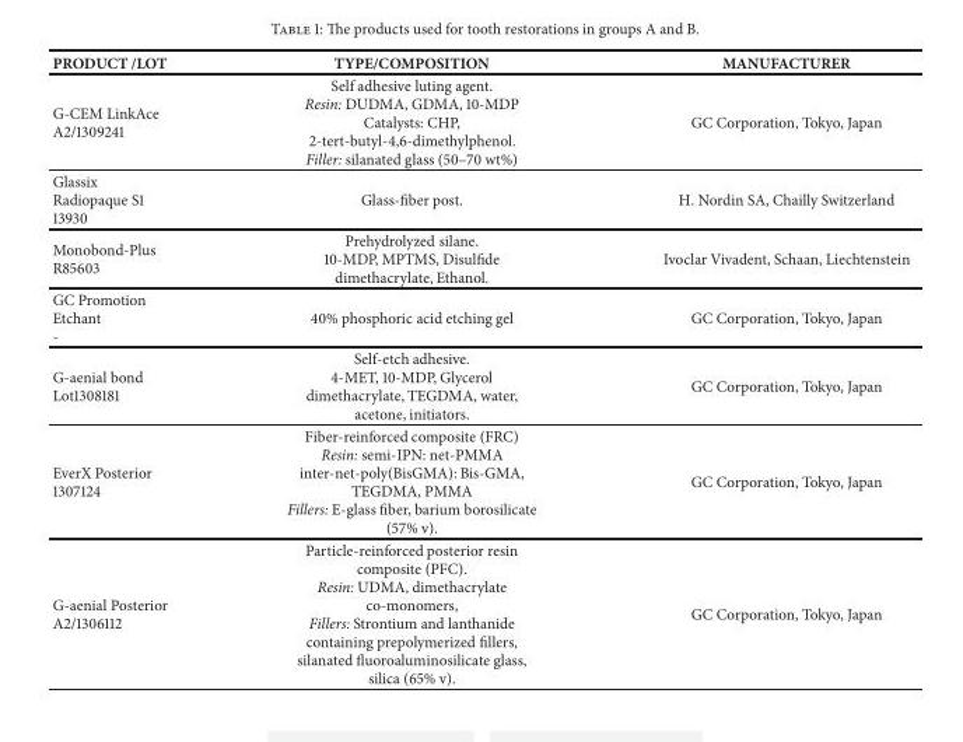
<table><thead><tr><td>PRODUCT /LOT</td><td>TYPE/COMPOSITION</td><td>MANUFACTURER</td></tr></thead><tbody><tr><td>G-CEM LinkAce A2/1309241</td><td>Self adhesive luting agent. Resin: DUDMA, GDMA, 10-MDP Catalysts: CHP, 2-tert-butyl-4,6-dimethylphenol. Filler: silanated glass (50–70 wt%)</td><td>GC Corporation, Tokyo, Japan</td></tr><tr><td>Glassix Radiopaque S1 13930</td><td>Glass-fiber post.</td><td>H. Nordin SA, Chailly Switzerland</td></tr><tr><td>Monobond-Plus R85603</td><td>Prehydrolyzed silane. 10-MDP, MPTMS, Disulfide dimethacrylate, Ethanol.</td><td>Ivoclar Vivadent, Schaan, Liechtenstein</td></tr><tr><td>GC Promotion Etchant -</td><td>40% phosphoric acid etching gel</td><td>GC Corporation, Tokyo, Japan</td></tr><tr><td>G-aenial bond Lot1308181</td><td>Self-etch adhesive. 4-MET, 10-MDP, Glycerol dimethacrylate, TEGDMA, water, acetone, initiators.</td><td>GC Corporation, Tokyo, Japan</td></tr><tr><td>EverX Posterior 1307124</td><td>Fiber-reinforced composite (FRC) Resin: semi-IPN: net-PMMA inter-net-poly(BisGMA): Bis-GMA, TEGDMA, PMMA Fillers: E-glass fiber, barium borosilicate (57% v).</td><td>GC Corporation, Tokyo, Japan</td></tr><tr><td>G-aenial Posterior A2/1306112</td><td>Particle-reinforced posterior resin composite (PFC). Resin: UDMA, dimethacrylate co-monomers, Fillers: Strontium and lanthanide containing prepolymerized fillers, silanated fluoroaluminosilicate glass, silica (65% v).</td><td>GC Corporation, Tokyo, Japan</td></tr></tbody></table>